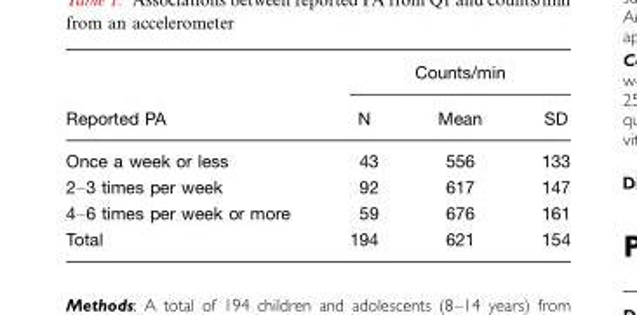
<table><thead><tr><td rowspan="2">Reported PA</td><td colspan="3">Counts/min</td></tr><tr><td>N</td><td>Mean</td><td>SD</td></tr></thead><tbody><tr><td>Once a week or less</td><td>43</td><td>556</td><td>133</td></tr><tr><td>2–3 times per week</td><td>92</td><td>617</td><td>147</td></tr><tr><td>4–6 times per week or more</td><td>59</td><td>676</td><td>161</td></tr><tr><td>Total</td><td>194</td><td>621</td><td>154</td></tr></tbody></table>